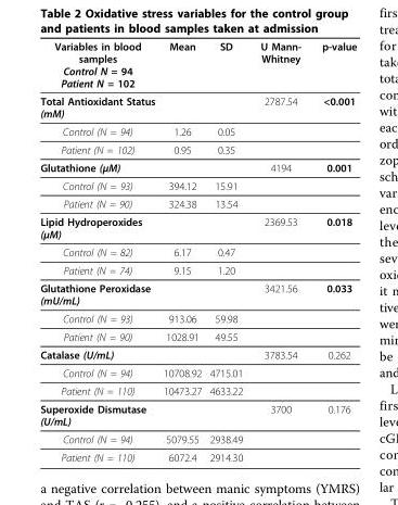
<table><thead><tr><td>Variables in blood samples Control N = 94 Patient N = 102</td><td>Mean</td><td>SD</td><td>U Mann- Whitney</td><td>p-value</td></tr></thead><tbody><tr><td>Total Antioxidant Status (mM)</td><td></td><td></td><td>2787.54</td><td>&lt;0.001</td></tr><tr><td>Control (N = 94)</td><td>1.26</td><td>0.05</td><td></td><td></td></tr><tr><td>Patient (N = 102)</td><td>0.95</td><td>0.35</td><td></td><td></td></tr><tr><td>Glutathione (μM)</td><td></td><td></td><td>4194</td><td>0.001</td></tr><tr><td>Control (N = 93)</td><td>394.12</td><td>15.91</td><td></td><td></td></tr><tr><td>Patient (N = 90)</td><td>324.38</td><td>13.54</td><td></td><td></td></tr><tr><td>Lipid Hydroperoxides (μM)</td><td></td><td></td><td>2369.53</td><td>0.018</td></tr><tr><td>Control (N = 82)</td><td>6.17</td><td>0.47</td><td></td><td></td></tr><tr><td>Patient (N = 74)</td><td>9.15</td><td>1.20</td><td></td><td></td></tr><tr><td>Glutathione Peroxidase (mU/mL)</td><td></td><td></td><td>3421.56</td><td>0.033</td></tr><tr><td>Control (N = 93)</td><td>913.06</td><td>59.98</td><td></td><td></td></tr><tr><td>Patient (N = 90)</td><td>1028.91</td><td>49.55</td><td></td><td></td></tr><tr><td>Catalase (U/mL)</td><td></td><td></td><td>3783.54</td><td>0.262</td></tr><tr><td>Control (N = 94)</td><td>10708.92</td><td>4715.01</td><td></td><td></td></tr><tr><td>Patient (N = 110)</td><td>10473.27</td><td>4633.22</td><td></td><td></td></tr><tr><td>Superoxide Dismutase (U/mL)</td><td></td><td></td><td>3700</td><td>0.176</td></tr><tr><td>Control (N = 94)</td><td>5079.55</td><td>2938.49</td><td></td><td></td></tr><tr><td>Patient (N = 110)</td><td>6072.4</td><td>2914.30</td><td></td><td></td></tr></tbody></table>